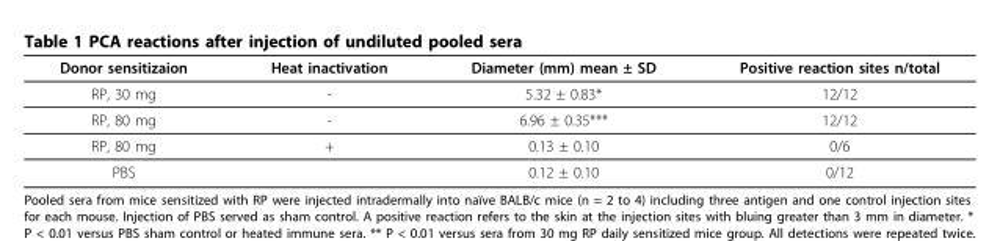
<table><thead><tr><td>Donor sensitizaion</td><td>Heat inactivation</td><td>Diameter (mm) mean ± SD</td><td>Positive reaction sites n/total</td></tr></thead><tbody><tr><td>RP, 30 mg</td><td>-</td><td>5.32 ± 0.83*</td><td>12/12</td></tr><tr><td>RP, 80 mg</td><td>-</td><td>6.96 ± 0.35***</td><td>12/12</td></tr><tr><td>RP, 80 mg</td><td>+</td><td>0.13 ± 0.10</td><td>0/6</td></tr><tr><td>PBS</td><td></td><td>0.12 ± 0.10</td><td>0/12</td></tr></tbody></table>